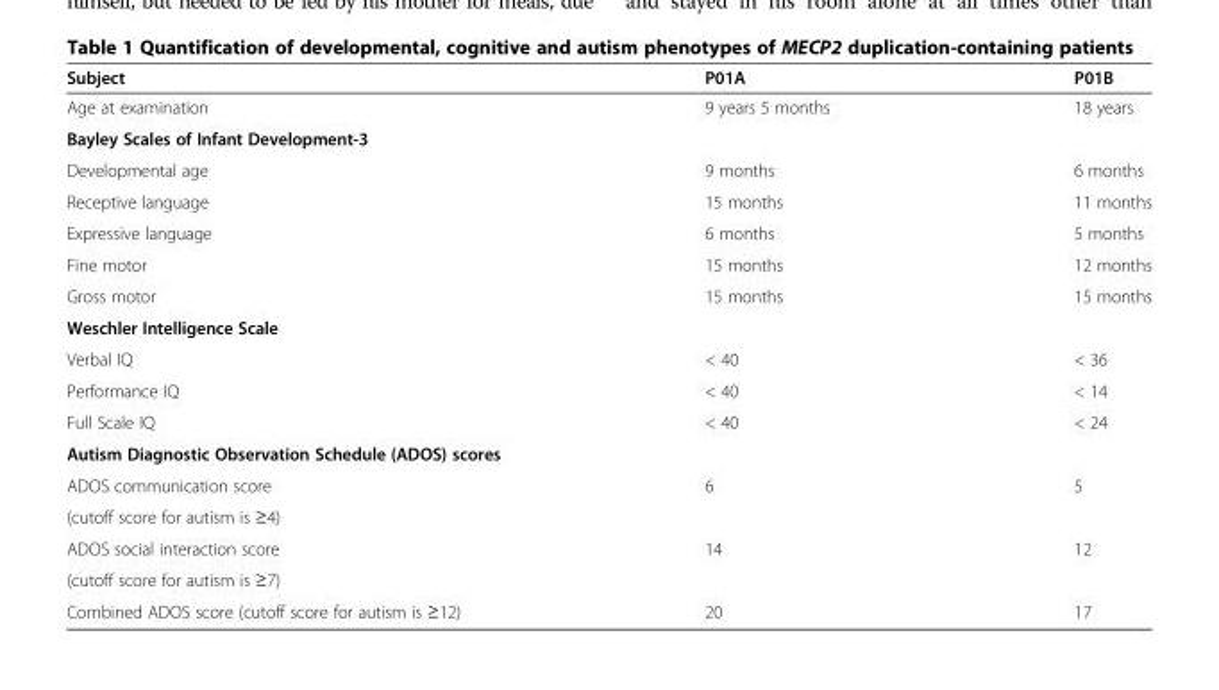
<table><thead><tr><td>Subject</td><td>P01A</td><td>P01B</td></tr></thead><tbody><tr><td>Age at examination</td><td>9 years 5 months</td><td>18 years</td></tr><tr><td colspan="3">Bayley Scales of Infant Development-3</td></tr><tr><td>Developmental age</td><td>9 months</td><td>6 months</td></tr><tr><td>Receptive language</td><td>15 months</td><td>11 months</td></tr><tr><td>Expressive language</td><td>6 months</td><td>5 months</td></tr><tr><td>Fine motor</td><td>15 months</td><td>12 months</td></tr><tr><td>Gross motor</td><td>15 months</td><td>15 months</td></tr><tr><td colspan="3">Weschler Intelligence Scale</td></tr><tr><td>Verbal IQ</td><td>&lt; 40</td><td>&lt; 36</td></tr><tr><td>Performance IQ</td><td>&lt; 40</td><td>&lt; 14</td></tr><tr><td>Full Scale IQ</td><td>&lt; 40</td><td>&lt; 24</td></tr><tr><td colspan="3">Autism Diagnostic Observation Schedule (ADOS) scores</td></tr><tr><td>ADOS communication score</td><td rowspan="2">6</td><td rowspan="2">5</td></tr><tr><td>(cutoff score for autism is ≥4)</td></tr><tr><td>ADOS social interaction score</td><td rowspan="2">14</td><td rowspan="2">12</td></tr><tr><td>(cutoff score for autism is ≥7)</td></tr><tr><td>Combined ADOS score (cutoff score for autism is ≥12)</td><td>20</td><td>17</td></tr></tbody></table>